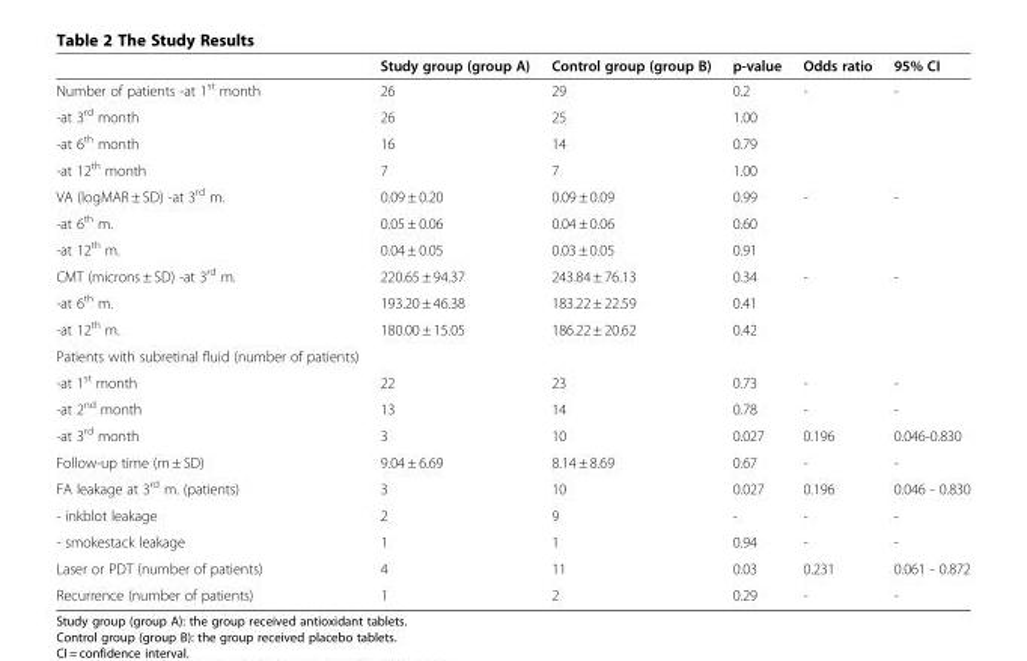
<table><thead><tr><td></td><td>Study group (group A)</td><td>Control group (group B)</td><td>p-value</td><td>Odds ratio</td><td>95% CI</td></tr></thead><tbody><tr><td>Number of patients -at 1<sup>st</sup> month</td><td>26</td><td>29</td><td>0.2</td><td>-</td><td>-</td></tr><tr><td>-at 3<sup>rd</sup> month</td><td>26</td><td>25</td><td>1.00</td><td></td><td></td></tr><tr><td>-at 6<sup>th</sup> month</td><td>16</td><td>14</td><td>0.79</td><td></td><td></td></tr><tr><td>-at 12<sup>th</sup> month</td><td>7</td><td>7</td><td>1.00</td><td></td><td></td></tr><tr><td>VA (logMAR ± SD) -at 3<sup>rd</sup> m.</td><td>0.09 ± 0.20</td><td>0.09 ± 0.09</td><td>0.99</td><td>-</td><td>-</td></tr><tr><td>-at 6<sup>th</sup> m.</td><td>0.05 ± 0.06</td><td>0.04 ± 0.06</td><td>0.60</td><td></td><td></td></tr><tr><td>-at 12<sup>th</sup> m.</td><td>0.04 ± 0.05</td><td>0.03 ± 0.05</td><td>0.91</td><td></td><td></td></tr><tr><td>CMT (microns ± SD) -at 3<sup>rd</sup> m.</td><td>220.65 ± 94.37</td><td>243.84 ± 76.13</td><td>0.34</td><td>-</td><td>-</td></tr><tr><td>-at 6<sup>th</sup> m.</td><td>193.20 ± 46.38</td><td>183.22 ± 22.59</td><td>0.41</td><td></td><td></td></tr><tr><td>-at 12<sup>th</sup> m.</td><td>180.00 ± 15.05</td><td>186.22 ± 20.62</td><td>0.42</td><td></td><td></td></tr><tr><td colspan="6">Patients with subretinal fluid (number of patients)</td></tr><tr><td>-at 1<sup>st</sup> month</td><td>22</td><td>23</td><td>0.73</td><td>-</td><td>-</td></tr><tr><td>-at 2<sup>nd</sup> month</td><td>13</td><td>14</td><td>0.78</td><td>-</td><td>-</td></tr><tr><td>-at 3<sup>rd</sup> month</td><td>3</td><td>10</td><td>0.027</td><td>0.196</td><td>0.046-0.830</td></tr><tr><td>Follow-up time (m ± SD)</td><td>9.04 ± 6.69</td><td>8.14 ± 8.69</td><td>0.67</td><td>-</td><td>-</td></tr><tr><td>FA leakage at 3<sup>rd</sup> m. (patients)</td><td>3</td><td>10</td><td>0.027</td><td>0.196</td><td>0.046 - 0.830</td></tr><tr><td>- inkblot leakage</td><td>2</td><td>9</td><td>-</td><td>-</td><td>-</td></tr><tr><td>- smokestack leakage</td><td>1</td><td>1</td><td>0.94</td><td>-</td><td>-</td></tr><tr><td>Laser or PDT (number of patients)</td><td>4</td><td>11</td><td>0.03</td><td>0.231</td><td>0.061 - 0.872</td></tr><tr><td>Recurrence (number of patients)</td><td>1</td><td>2</td><td>0.29</td><td>-</td><td>-</td></tr></tbody></table>